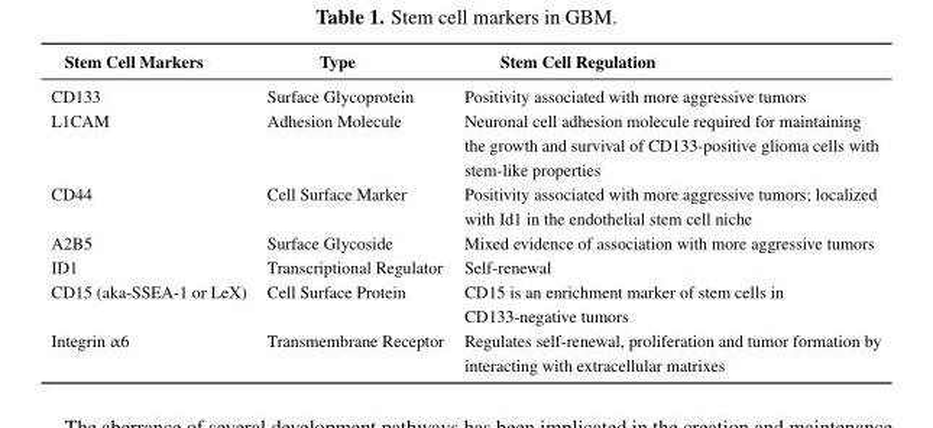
<table><thead><tr><td>Stem Cell Markers</td><td>Type</td><td>Stem Cell Regulation</td></tr></thead><tbody><tr><td>CD133</td><td>Surface Glycoprotein</td><td>Positivity associated with more aggressive tumors</td></tr><tr><td>L1CAM</td><td>Adhesion Molecule</td><td>Neuronal cell adhesion molecule required for maintaining the growth and survival of CD133-positive glioma cells with stem-like properties</td></tr><tr><td>CD44</td><td>Cell Surface Marker</td><td>Positivity associated with more aggressive tumors; localized with Id1 in the endothelial stem cell niche</td></tr><tr><td>A2B5</td><td>Surface Glycoside</td><td>Mixed evidence of association with more aggressive tumors</td></tr><tr><td>ID1</td><td>Transcriptional Regulator</td><td>Self-renewal</td></tr><tr><td>CD15 (aka-SSEA-1 or LeX)</td><td>Cell Surface Protein</td><td>CD15 is an enrichment marker of stem cells in CD133-negative tumors</td></tr><tr><td>Integrin α6</td><td>Transmembrane Receptor</td><td>Regulates self-renewal, proliferation and tumor formation by interacting with extracellular matrixes</td></tr></tbody></table>